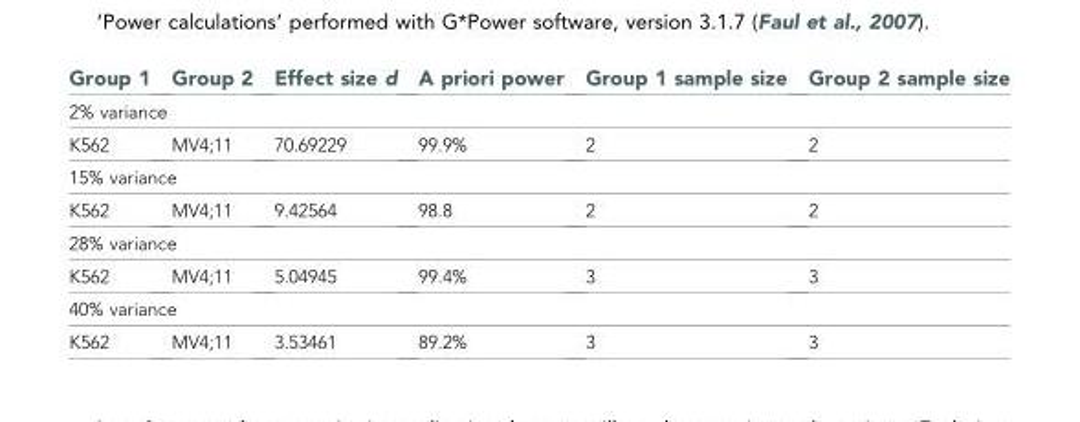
<table><thead><tr><td>Group 1</td><td>Group 2</td><td>Effect size d</td><td>A priori power</td><td>Group 1 sample size</td><td>Group 2 sample size</td></tr></thead><tbody><tr><td colspan="6">2% variance</td></tr><tr><td>K562</td><td>MV4;11</td><td>70.69229</td><td>99.9%</td><td>2</td><td>2</td></tr><tr><td colspan="6">15% variance</td></tr><tr><td>K562</td><td>MV4;11</td><td>9.42564</td><td>98.8</td><td>2</td><td>2</td></tr><tr><td colspan="6">28% variance</td></tr><tr><td>K562</td><td>MV4;11</td><td>5.04945</td><td>99.4%</td><td>3</td><td>3</td></tr><tr><td colspan="6">40% variance</td></tr><tr><td>K562</td><td>MV4;11</td><td>3.53461</td><td>89.2%</td><td>3</td><td>3</td></tr></tbody></table>